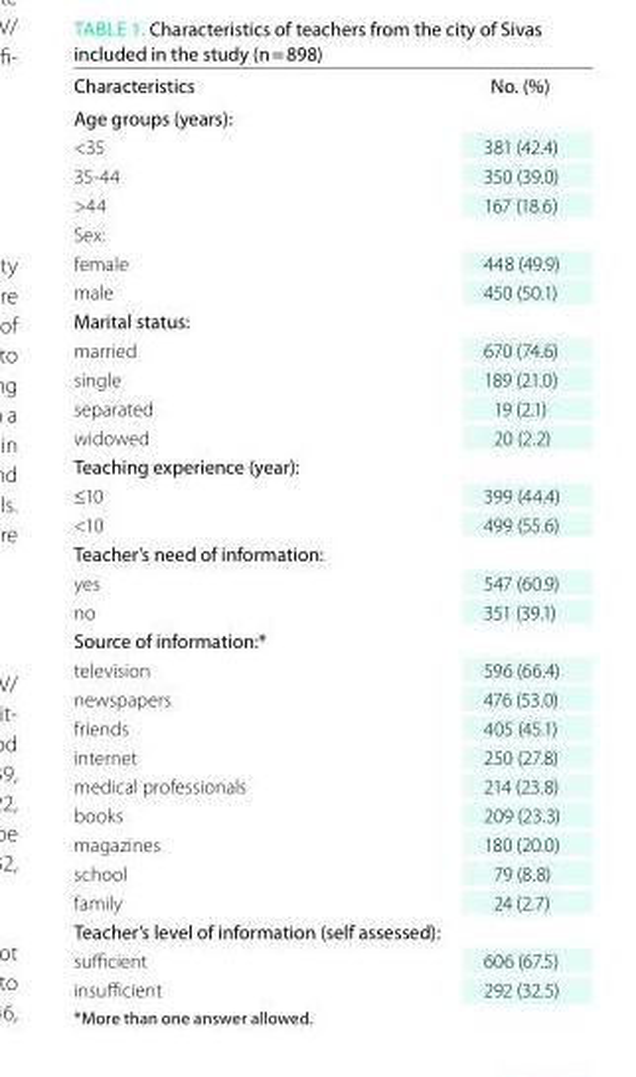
<table><thead><tr><td>Characteristics</td><td>No. (%)</td></tr><tr><td colspan="2">Age groups (years):</td></tr></thead><tbody><tr><td>&lt;35</td><td>381 (42.4)</td></tr><tr><td>35-44</td><td>350 (39.0)</td></tr><tr><td>&gt;44</td><td>167 (18.6)</td></tr><tr><td colspan="2">Sex:</td></tr><tr><td>female</td><td>448 (49.9)</td></tr><tr><td>male</td><td>450 (50.1)</td></tr><tr><td colspan="2">Marital status:</td></tr><tr><td>married</td><td>670 (74.6)</td></tr><tr><td>single</td><td>189 (21.0)</td></tr><tr><td>separated</td><td>19 (2.1)</td></tr><tr><td>widowed</td><td>20 (2.2)</td></tr><tr><td colspan="2">teaching experience (year):</td></tr><tr><td>≤10</td><td>399 (44.4)</td></tr><tr><td>&lt;10</td><td>499 (55.6)</td></tr><tr><td colspan="2">teacher’s need of information:</td></tr><tr><td>yes</td><td>547 (60.9)</td></tr><tr><td>no</td><td>351 (39.1)</td></tr><tr><td colspan="2">source of information:*</td></tr><tr><td>television</td><td>596 (66.4)</td></tr><tr><td>newspapers</td><td>476 (53.0)</td></tr><tr><td>friends</td><td>405 (45.1)</td></tr><tr><td>internet</td><td>250 (27.8)</td></tr><tr><td>medical professionals</td><td>214 (23.8)</td></tr><tr><td>books</td><td>209 (23.3)</td></tr><tr><td>magazines</td><td>180 (20.0)</td></tr><tr><td>school</td><td>79 (8.8)</td></tr><tr><td>family</td><td>24 (2.7)</td></tr><tr><td colspan="2">teacher’s level of information (self assessed):</td></tr><tr><td>sufficient</td><td>606 (67.5)</td></tr><tr><td>insufficient</td><td>292 (32.5)</td></tr></tbody></table>